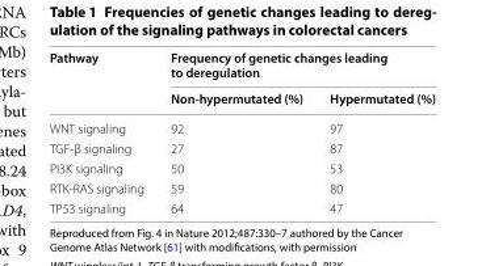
<table><thead><tr><td rowspan="2">Pathway</td><td colspan="2">Frequency of genetic changes leading to deregulation</td></tr><tr><td>Non-hypermutated (%)</td><td>Hypermutated (%)</td></tr></thead><tbody><tr><td>WNT signaling</td><td>92</td><td>97</td></tr><tr><td>TGF-β signaling</td><td>27</td><td>87</td></tr><tr><td>PI3K signaling</td><td>50</td><td>53</td></tr><tr><td>RTK-RAS signaling</td><td>59</td><td>80</td></tr><tr><td>TP53 signaling</td><td>64</td><td>47</td></tr></tbody></table>